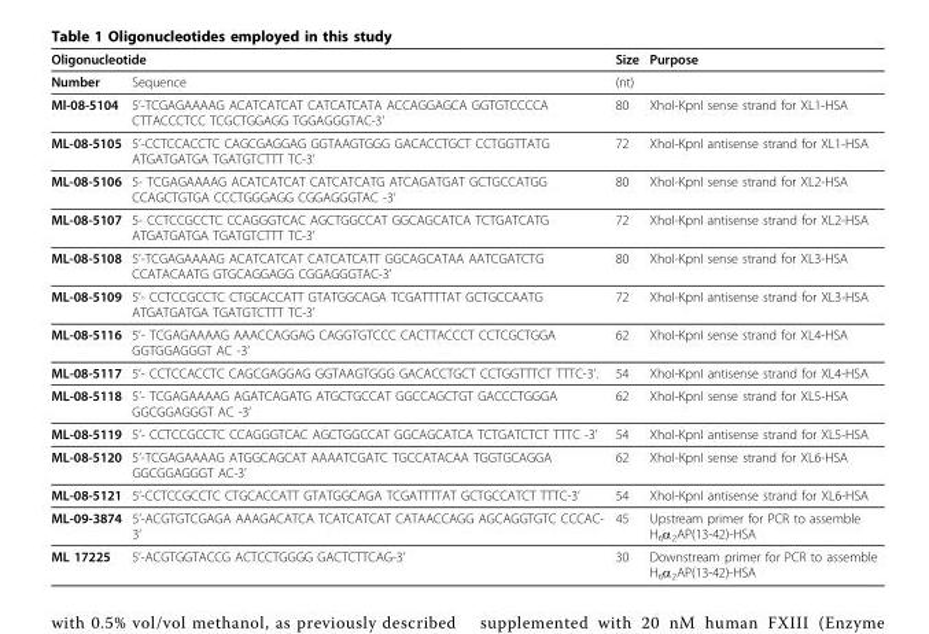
<table><thead><tr><td colspan="2">Oligonucleotide</td><td rowspan="2">Size (nt)</td><td rowspan="2">Purpose</td></tr><tr><td>Number</td><td>Sequence</td></tr></thead><tbody><tr><td>Ml-08-5104</td><td>5’-TCGAGAAAAG ACATCATCAT CATCATCATA ACCAGGAGCA GGTGTCCCCA CTTACCCTCC TCGCTGGAGG TGGAGGGTAC-3’</td><td>80</td><td>XhoI-KpnI sense strand for XL1-HSA</td></tr><tr><td>ML-08-5105</td><td>5’-CCTCCACCTC CAGCGAGGAG GGTAAGTGGG GACACCTGCT CCTGGTTATG ATGATGATGA TGATGTCTTT TC-3’</td><td>72</td><td>XhoI-KpnI antisense strand for XL1-HSA</td></tr><tr><td>ML-08-5106</td><td>5- TCGAGAAAAG ACATCATCAT CATCATCATG ATCAGATGAT GCTGCCATGG CCAGCTGTGA CCCTGGGAGG CGGAGGGTAC -3’</td><td>80</td><td>XhoI-KpnI sense strand for XL2-HSA</td></tr><tr><td>ML-08-5107</td><td>5- CCTCCGCCTC CCAGGGTCAC AGCTGGCCAT GGCAGCATCA TCTGATCATG ATGATGATGA TGATGTCTTT TC-3’</td><td>72</td><td>XhoI-KpnI antisense strand for XL2-HSA</td></tr><tr><td>ML-08-5108</td><td>5’-TCGAGAAAAG ACATCATCAT CATCATCATT GGCAGCATAA AATCGATCTG CCATACAATG GTGCAGGAGG CGGAGGGTAC-3’</td><td>80</td><td>XhoI-KpnI sense strand for XL3-HSA</td></tr><tr><td>ML-08-5109</td><td>5’- CCTCCGCCTC CTGCACCATT GTATGGCAGA TCGATTTTAT GCTGCCAATG ATGATGATGA TGATGTCTTT TC-3’</td><td>72</td><td>XhoI-KpnI antisense strand for XL3-HSA</td></tr><tr><td>ML-08-5116</td><td>5’- TCGAGAAAAG AAACCAGGAG CAGGTGTCCC CACTTACCCT CCTCGCTGGA GGTGGAGGGT AC -3’</td><td>62</td><td>XhoI-KpnI sense strand for XL4-HSA</td></tr><tr><td>ML-08-5117</td><td>5’- CCTCCACCTC CAGCGAGGAG GGTAAGTGGG GACACCTGCT CCTGGTTTCT TTTC-3’.</td><td>54</td><td>XhoI-KpnI antisense strand for XL4-HSA</td></tr><tr><td>ML-08-5118</td><td>5’- TCGAGAAAAG AGATCAGATG ATGCTGCCAT GGCCAGCTGT GACCCTGGGA GGCGGAGGGT AC -3’</td><td>62</td><td>XhoI-KpnI sense strand for XL5-HSA</td></tr><tr><td>ML-08-5119</td><td>5’- CCTCCGCCTC CCAGGGTCAC AGCTGGCCAT GGCAGCATCA TCTGATCTCT TTTC -3’</td><td>54</td><td>XhoI-KpnI antisense strand for XL5-HSA</td></tr><tr><td>ML-08-5120</td><td>5’-TCGAGAAAAG ATGGCAGCAT AAAATCGATC TGCCATACAA TGGTGCAGGA GGCGGAGGGT AC-3’</td><td>62</td><td>XhoI-KpnI sense strand for XL6-HSA</td></tr><tr><td>ML-08-5121</td><td>5’-CCTCCGCCTC CTGCACCATT GTATGGCAGA TCGATTTTAT GCTGCCATCT TTTC-3’</td><td>54</td><td>XhoI-KpnI antisense strand for XL6-HSA</td></tr><tr><td>ML-09-3874</td><td>5’-ACGTGTCGAGA AAAGACATCA TCATCATCAT CATAACCAGG AGCAGGTGTC CCCAC- 3’</td><td>45</td><td>Upstream primer for PCR to assemble H<sub>6</sub>α<sub>2</sub>AP(13-42)-HSA</td></tr><tr><td>ML 17225</td><td>5’-ACGTGGTACCG ACTCCTGGGG GACTCTTCAG-3’</td><td>30</td><td>Downstream primer for PCR to assemble H<sub>6</sub>α<sub>2</sub>AP(13-42)-HSA</td></tr></tbody></table>